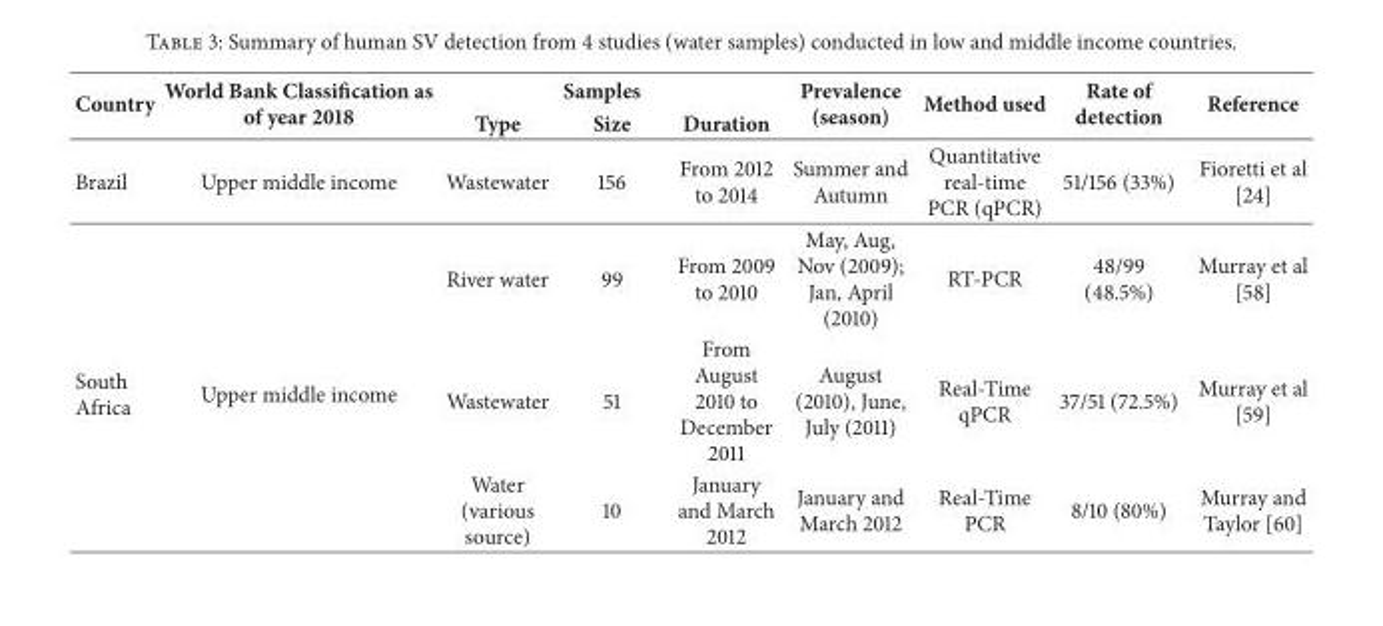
<table><thead><tr><td rowspan="2">Country</td><td rowspan="2">World Bank Classification as of year 2018</td><td colspan="3">Samples</td><td rowspan="2">Prevalence (season)</td><td rowspan="2">Method used</td><td rowspan="2">Rate of detection</td><td rowspan="2">Reference</td></tr><tr><td>Type</td><td>Size</td><td>Duration</td></tr></thead><tbody><tr><td>Brazil</td><td>Upper middle income</td><td>Wastewater</td><td>156</td><td>From 2012 to 2014</td><td>Summer and Autumn</td><td>Quantitative real-time PCR (qPCR)</td><td>51/156 (33%)</td><td>Fioretti et al [24]</td></tr><tr><td rowspan="3">South Africa</td><td rowspan="3">Upper middle income</td><td>River water</td><td>99</td><td>From 2009 to 2010</td><td>May, Aug, Nov (2009); Jan, April (2010)</td><td>RT-PCR</td><td>48/99 (48.5%)</td><td>Murray et al [58]</td></tr><tr><td>Wastewater</td><td>51</td><td>From August 2010 to December 2011</td><td>August (2010), June, July (2011)</td><td>Real-Time qPCR</td><td>37/51 (72.5%)</td><td>Murray et al [59]</td></tr><tr><td>Water (various source)</td><td>10</td><td>January and March 2012</td><td>January and March 2012</td><td>Real-Time PCR</td><td>8/10 (80%)</td><td>Murray and Taylor [60]</td></tr></tbody></table>